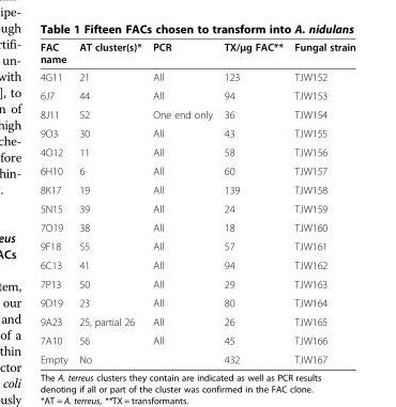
<table><thead><tr><td>FAC name</td><td>AT cluster(s)*</td><td>PCR</td><td>TX/μg FAC**</td><td>Fungal strain</td></tr></thead><tbody><tr><td>4G11</td><td>21</td><td>All</td><td>123</td><td>TJW152</td></tr><tr><td>6J7</td><td>44</td><td>All</td><td>94</td><td>TJW153</td></tr><tr><td>8J11</td><td>52</td><td>One end only</td><td>36</td><td>TJW154</td></tr><tr><td>9O3</td><td>30</td><td>All</td><td>43</td><td>TJW155</td></tr><tr><td>4O12</td><td>11</td><td>All</td><td>58</td><td>TJW156</td></tr><tr><td>6H10</td><td>6</td><td>All</td><td>60</td><td>TJW157</td></tr><tr><td>8K17</td><td>19</td><td>All</td><td>139</td><td>TJW158</td></tr><tr><td>5N15</td><td>39</td><td>All</td><td>24</td><td>TJW159</td></tr><tr><td>7O19</td><td>38</td><td>All</td><td>18</td><td>TJW160</td></tr><tr><td>9F18</td><td>55</td><td>All</td><td>57</td><td>TJW161</td></tr><tr><td>6C13</td><td>41</td><td>All</td><td>94</td><td>TJW162</td></tr><tr><td>7P13</td><td>50</td><td>All</td><td>29</td><td>TJW163</td></tr><tr><td>9D19</td><td>23</td><td>All</td><td>80</td><td>TJW164</td></tr><tr><td>9A23</td><td>25, partial 26</td><td>All</td><td>26</td><td>TJW165</td></tr><tr><td>7A10</td><td>56</td><td>All</td><td>45</td><td>TJW166</td></tr><tr><td>Empty</td><td>No</td><td></td><td>432</td><td>TJW167</td></tr></tbody></table>